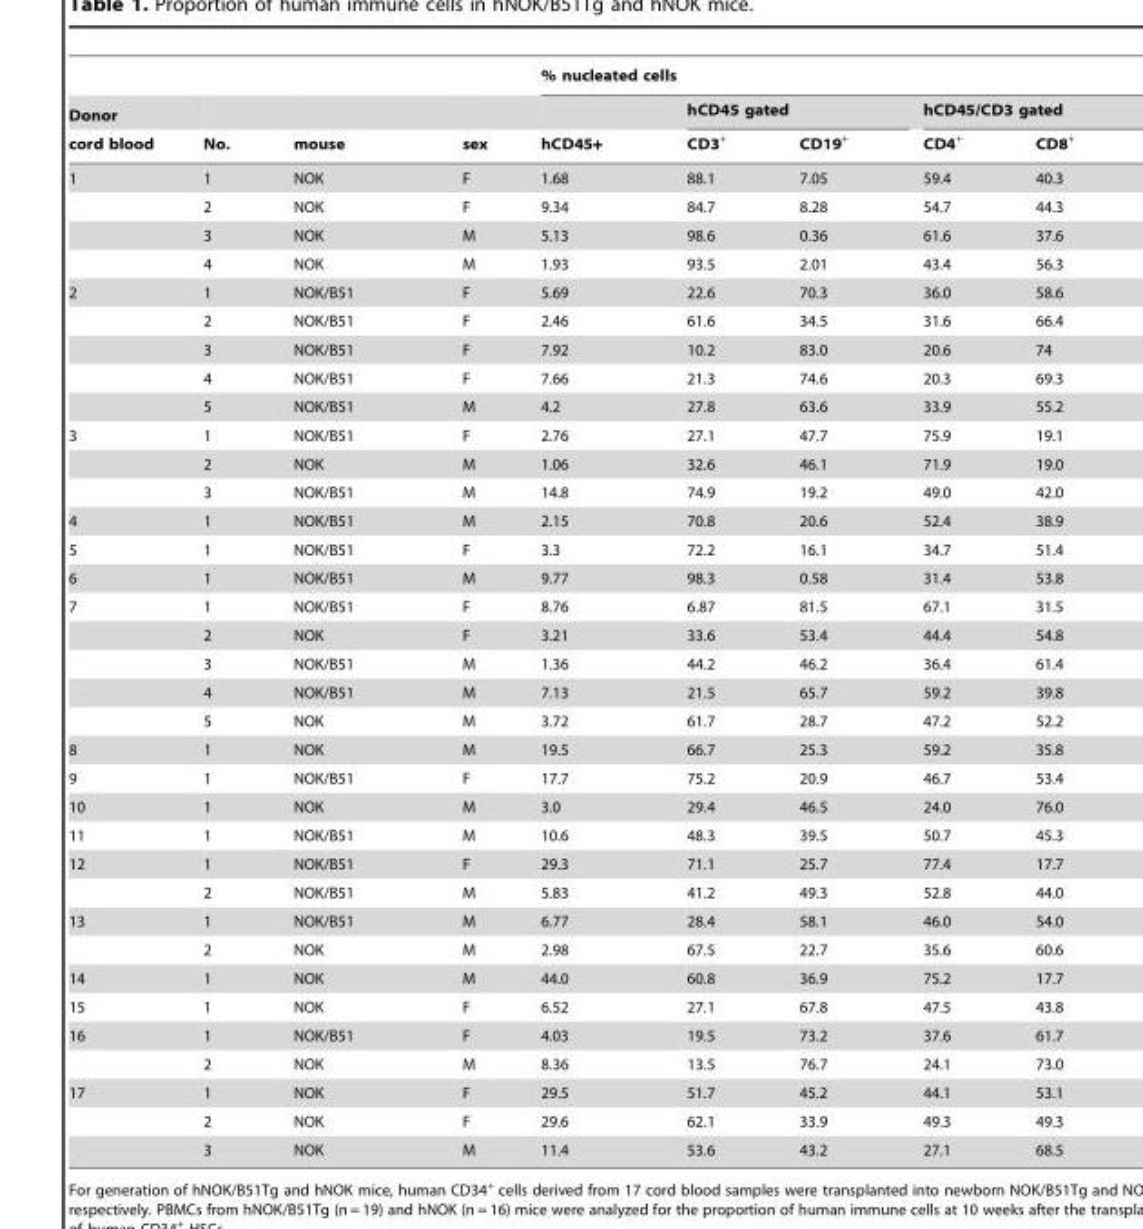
<table><thead><tr><td rowspan="3">Donor cord blood</td><td rowspan="3">No.</td><td rowspan="3">mouse</td><td rowspan="3">sex</td><td colspan="5">% nucleated cells</td></tr><tr><td rowspan="2">hCD45+</td><td colspan="2">hCD45 gated</td><td colspan="2">hCD45/CD3 gated</td></tr><tr><td>CD3<sup>+</sup></td><td>CD19<sup>+</sup></td><td>CD4<sup>+</sup></td><td>CD8<sup>+</sup></td></tr></thead><tbody><tr><td rowspan="4">1</td><td>1</td><td>NOK</td><td>F</td><td>1.68</td><td>88.1</td><td>7.05</td><td>59.4</td><td>40.3</td></tr><tr><td>2</td><td>NOK</td><td>F</td><td>9.34</td><td>84.7</td><td>8.28</td><td>54.7</td><td>44.3</td></tr><tr><td>3</td><td>NOK</td><td>M</td><td>5.13</td><td>98.6</td><td>0.36</td><td>61.6</td><td>37.6</td></tr><tr><td>4</td><td>NOK</td><td>M</td><td>1.93</td><td>93.5</td><td>2.01</td><td>43.4</td><td>56.3</td></tr><tr><td rowspan="5">2</td><td>1</td><td>NOK/B51</td><td>F</td><td>5.69</td><td>22.6</td><td>70.3</td><td>36.0</td><td>58.6</td></tr><tr><td>2</td><td>NOK/B51</td><td>F</td><td>2.46</td><td>61.6</td><td>34.5</td><td>31.6</td><td>66.4</td></tr><tr><td>3</td><td>NOK/B51</td><td>F</td><td>7.92</td><td>10.2</td><td>83.0</td><td>20.6</td><td>74</td></tr><tr><td>4</td><td>NOK/B51</td><td>F</td><td>7.66</td><td>21.3</td><td>74.6</td><td>20.3</td><td>69.3</td></tr><tr><td>5</td><td>NOK/B51</td><td>M</td><td>4.2</td><td>27.8</td><td>63.6</td><td>33.9</td><td>55.2</td></tr><tr><td rowspan="3">3</td><td>1</td><td>NOK/B51</td><td>F</td><td>2.76</td><td>27.1</td><td>47.7</td><td>75.9</td><td>19.1</td></tr><tr><td>2</td><td>NOK</td><td>M</td><td>1.06</td><td>32.6</td><td>46.1</td><td>71.9</td><td>19.0</td></tr><tr><td>3</td><td>NOK/B51</td><td>M</td><td>14.8</td><td>74.9</td><td>19.2</td><td>49.0</td><td>42.0</td></tr><tr><td>4</td><td>1</td><td>NOK/B51</td><td>M</td><td>2.15</td><td>70.8</td><td>20.6</td><td>52.4</td><td>38.9</td></tr><tr><td>5</td><td>1</td><td>NOK/B51</td><td>F</td><td>3.3</td><td>72.2</td><td>16.1</td><td>34.7</td><td>51.4</td></tr><tr><td>6</td><td>1</td><td>NOK/B51</td><td>M</td><td>9.77</td><td>98.3</td><td>0.58</td><td>31.4</td><td>53.8</td></tr><tr><td rowspan="5">7</td><td>1</td><td>NOK/B51</td><td>F</td><td>8.76</td><td>6.87</td><td>81.5</td><td>67.1</td><td>31.5</td></tr><tr><td>2</td><td>NOK</td><td>F</td><td>3.21</td><td>33.6</td><td>53.4</td><td>44.4</td><td>54.8</td></tr><tr><td>3</td><td>NOK/B51</td><td>M</td><td>1.36</td><td>44.2</td><td>46.2</td><td>36.4</td><td>61.4</td></tr><tr><td>4</td><td>NOK/B51</td><td>M</td><td>7.13</td><td>21.5</td><td>65.7</td><td>59.2</td><td>39.8</td></tr><tr><td>5</td><td>NOK</td><td>M</td><td>3.72</td><td>61.7</td><td>28.7</td><td>47.2</td><td>52.2</td></tr><tr><td>8</td><td>1</td><td>NOK</td><td>M</td><td>19.5</td><td>66.7</td><td>25.3</td><td>59.2</td><td>35.8</td></tr><tr><td>9</td><td>1</td><td>NOK/B51</td><td>F</td><td>17.7</td><td>75.2</td><td>20.9</td><td>46.7</td><td>53.4</td></tr><tr><td>10</td><td>1</td><td>NOK</td><td>M</td><td>3.0</td><td>29.4</td><td>46.5</td><td>24.0</td><td>76.0</td></tr><tr><td>11</td><td>1</td><td>NOK/B51</td><td>M</td><td>10.6</td><td>48.3</td><td>39.5</td><td>50.7</td><td>45.3</td></tr><tr><td rowspan="2">12</td><td>1</td><td>NOK/B51</td><td>F</td><td>29.3</td><td>71.1</td><td>25.7</td><td>77.4</td><td>17.7</td></tr><tr><td>2</td><td>NOK/B51</td><td>M</td><td>5.83</td><td>41.2</td><td>49.3</td><td>52.8</td><td>44.0</td></tr><tr><td rowspan="2">13</td><td>1</td><td>NOK/B51</td><td>M</td><td>6.77</td><td>28.4</td><td>58.1</td><td>46.0</td><td>54.0</td></tr><tr><td>2</td><td>NOK</td><td>M</td><td>2.98</td><td>67.5</td><td>22.7</td><td>35.6</td><td>60.6</td></tr><tr><td>14</td><td>1</td><td>NOK</td><td>M</td><td>44.0</td><td>60.8</td><td>36.9</td><td>75.2</td><td>17.7</td></tr><tr><td>15</td><td>1</td><td>NOK</td><td>F</td><td>6.52</td><td>27.1</td><td>67.8</td><td>47.5</td><td>43.8</td></tr><tr><td rowspan="2">16</td><td>1</td><td>NOK/B51</td><td>F</td><td>4.03</td><td>19.5</td><td>73.2</td><td>37.6</td><td>61.7</td></tr><tr><td>2</td><td>NOK</td><td>M</td><td>8.36</td><td>13.5</td><td>76.7</td><td>24.1</td><td>73.0</td></tr><tr><td rowspan="3">17</td><td>1</td><td>NOK</td><td>F</td><td>29.5</td><td>51.7</td><td>45.2</td><td>44.1</td><td>53.1</td></tr><tr><td>2</td><td>NOK</td><td>F</td><td>29.6</td><td>62.1</td><td>33.9</td><td>49.3</td><td>49.3</td></tr><tr><td>3</td><td>NOK</td><td>M</td><td>11.4</td><td>53.6</td><td>43.2</td><td>27.1</td><td>68.5</td></tr></tbody></table>